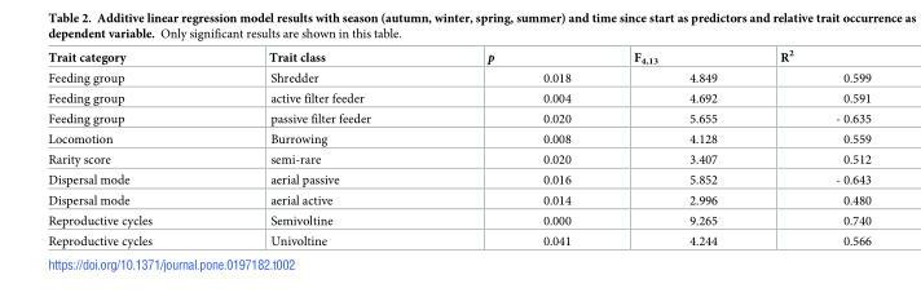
<table><thead><tr><td>Trait category</td><td>Trait class</td><td>p</td><td>F<sub>4,13</sub></td><td>R<sup>2</sup></td></tr></thead><tbody><tr><td>Feeding group</td><td>Shredder</td><td>0.018</td><td>4.849</td><td>0.599</td></tr><tr><td>Feeding group</td><td>active filter feeder</td><td>0.004</td><td>4.692</td><td>0.591</td></tr><tr><td>Feeding group</td><td>passive filter feeder</td><td>0.020</td><td>5.655</td><td>- 0.635</td></tr><tr><td>Locomotion</td><td>Burrowing</td><td>0.008</td><td>4.128</td><td>0.559</td></tr><tr><td>Rarity score</td><td>semi-rare</td><td>0.020</td><td>3.407</td><td>0.512</td></tr><tr><td>Dispersal mode</td><td>aerial passive</td><td>0.016</td><td>5.852</td><td>- 0.643</td></tr><tr><td>Dispersal mode</td><td>aerial active</td><td>0.014</td><td>2.996</td><td>0.480</td></tr><tr><td>Reproductive cycles</td><td>Semivoltine</td><td>0.000</td><td>9.265</td><td>0.740</td></tr><tr><td>Reproductive cycles</td><td>Univoltine</td><td>0.041</td><td>4.244</td><td>0.566</td></tr></tbody></table>